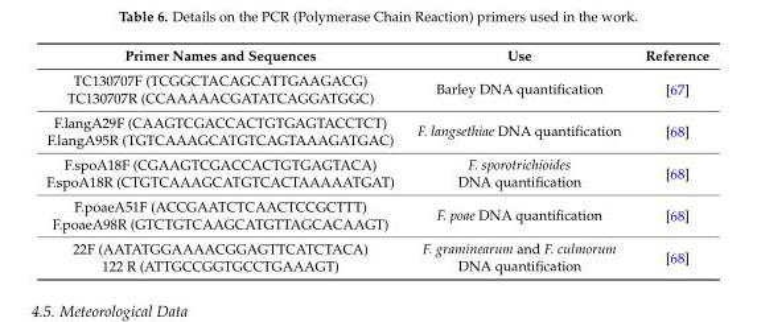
<table><thead><tr><td>Primer Names and Sequences</td><td>Use</td><td>Reference</td></tr></thead><tbody><tr><td>TC130707F (TCGGCTACAGCATTGAAGACG)</td><td rowspan="2">Barley DNA quantification</td><td rowspan="2">[67]</td></tr><tr><td>TC130707R (CCAAAAACGATATCAGGATGGC)</td></tr><tr><td>F.langA29F (CAAGTCGACCACTGTGAGTACCTCT)</td><td rowspan="2">F. langsethiae DNA quantification</td><td rowspan="2">[68]</td></tr><tr><td>F.langA95R (TGTCAAAGCATGTCAGTAAAGATGAC)</td></tr><tr><td>F.spoA18F (CGAAGTCGACCACTGTGAGTACA)</td><td rowspan="2">F. sporotrichioides DNA quantification</td><td rowspan="2">[68]</td></tr><tr><td>F.spoA18R (CTGTCAAAGCATGTCACTAAAAATGAT)</td></tr><tr><td>F.poaeA51F (ACCGAATCTCAACTCCGCTTT)</td><td rowspan="2">F. poae DNA quantification</td><td rowspan="2">[68]</td></tr><tr><td>F.poaeA98R (GTCTGTCAAGCATGTTAGCACAAGT)</td></tr><tr><td>22F (AATATGGAAAACGGAGTTCATCTACA)</td><td rowspan="2">F. graminearum and F. culmorum DNA quantification</td><td rowspan="2">[68]</td></tr><tr><td>122 R (ATTGCCGGTGCCTGAAAGT)</td></tr></tbody></table>